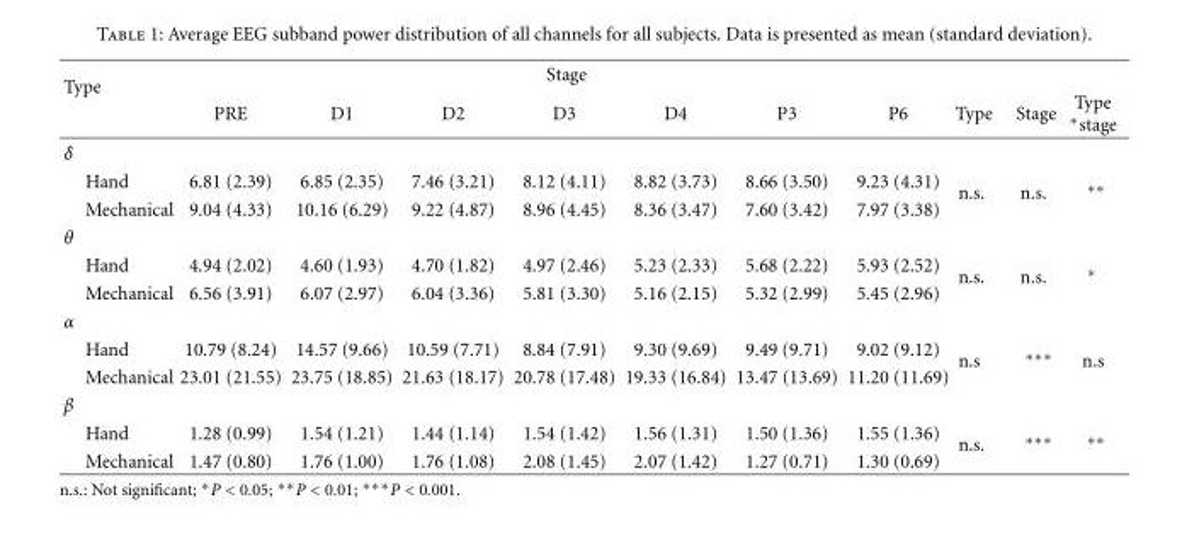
<table><thead><tr><td rowspan="2">Type</td><td colspan="7">Stage</td><td rowspan="2">Type</td><td rowspan="2">Stage</td><td rowspan="2">Type ∗stage</td></tr><tr><td>PRE</td><td>D1</td><td>D2</td><td>D3</td><td>D4</td><td>P3</td><td>P6</td></tr></thead><tbody><tr><td colspan="11">δ</td></tr><tr><td>Hand</td><td>6.81 (2.39)</td><td>6.85 (2.35)</td><td>7.46 (3.21)</td><td>8.12 (4.11)</td><td>8.82 (3.73)</td><td>8.66 (3.50)</td><td>9.23 (4.31)</td><td rowspan="2">n.s.</td><td rowspan="2">n.s.</td><td rowspan="2">∗∗</td></tr><tr><td>Mechanical</td><td>9.04 (4.33)</td><td>10.16 (6.29)</td><td>9.22 (4.87)</td><td>8.96 (4.45)</td><td>8.36 (3.47)</td><td>7.60 (3.42)</td><td>7.97 (3.38)</td></tr><tr><td colspan="11">θ</td></tr><tr><td>Hand</td><td>4.94 (2.02)</td><td>4.60 (1.93)</td><td>4.70 (1.82)</td><td>4.97 (2.46)</td><td>5.23 (2.33)</td><td>5.68 (2.22)</td><td>5.93 (2.52)</td><td rowspan="2">n.s.</td><td rowspan="2">n.s.</td><td rowspan="2">∗</td></tr><tr><td>Mechanical</td><td>6.56 (3.91)</td><td>6.07 (2.97)</td><td>6.04 (3.36)</td><td>5.81 (3.30)</td><td>5.16 (2.15)</td><td>5.32 (2.99)</td><td>5.45 (2.96)</td></tr><tr><td colspan="11">α</td></tr><tr><td>Hand</td><td>10.79 (8.24)</td><td>14.57 (9.66)</td><td>10.59 (7.71)</td><td>8.84 (7.91)</td><td>9.30 (9.69)</td><td>9.49 (9.71)</td><td>9.02 (9.12)</td><td rowspan="2">n.s</td><td rowspan="2">∗∗∗</td><td rowspan="2">n.s</td></tr><tr><td>Mechanical</td><td>23.01 (21.55)</td><td>23.75 (18.85)</td><td>21.63 (18.17)</td><td>20.78 (17.48)</td><td>19.33 (16.84)</td><td>13.47 (13.69)</td><td>11.20 (11.69)</td></tr><tr><td colspan="11">β</td></tr><tr><td>Hand</td><td>1.28 (0.99)</td><td>1.54 (1.21)</td><td>1.44 (1.14)</td><td>1.54 (1.42)</td><td>1.56 (1.31)</td><td>1.50 (1.36)</td><td>1.55 (1.36)</td><td rowspan="2">n.s.</td><td rowspan="2">∗∗∗</td><td rowspan="2">∗∗</td></tr><tr><td>Mechanical</td><td>1.47 (0.80)</td><td>1.76 (1.00)</td><td>1.76 (1.08)</td><td>2.08 (1.45)</td><td>2.07 (1.42)</td><td>1.27 (0.71)</td><td>1.30 (0.69)</td></tr></tbody></table>